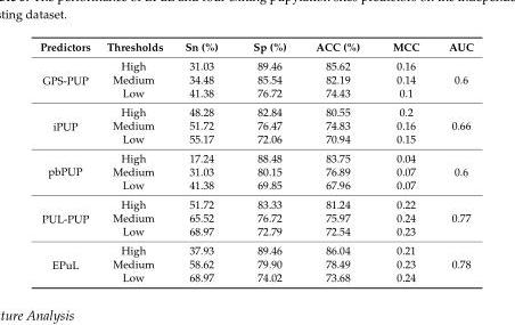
<table><thead><tr><td>Predictors</td><td>Thresholds</td><td>Sn (%)</td><td>Sp (%)</td><td>ACC (%)</td><td>MCC</td><td>AUC</td></tr></thead><tbody><tr><td rowspan="3">GPS-PUP</td><td>High</td><td>31.03</td><td>89.46</td><td>85.62</td><td>0.16</td><td></td></tr><tr><td>Medium</td><td>34.48</td><td>85.54</td><td>82.19</td><td>0.14</td><td>0.6</td></tr><tr><td>Low</td><td>41.38</td><td>76.72</td><td>74.43</td><td>0.1</td><td></td></tr><tr><td rowspan="3">iPUP</td><td>High</td><td>48.28</td><td>82.84</td><td>80.55</td><td>0.2</td><td></td></tr><tr><td>Medium</td><td>51.72</td><td>76.47</td><td>74.83</td><td>0.16</td><td>0.66</td></tr><tr><td>Low</td><td>55.17</td><td>72.06</td><td>70.94</td><td>0.15</td><td></td></tr><tr><td rowspan="3">pbPUP 1463</td><td>High</td><td>17.24</td><td>88.48</td><td>83.75</td><td>0.04</td><td></td></tr><tr><td>Medium</td><td>31.03</td><td>80.15</td><td>76.89</td><td>0.07</td><td>0.6</td></tr><tr><td>Low</td><td>41.38</td><td>69.85</td><td>67.96</td><td>0.07</td><td></td></tr><tr><td rowspan="3">PUL-PUP</td><td>High</td><td>51.72</td><td>83.33</td><td>81.24</td><td>0.22</td><td></td></tr><tr><td>Medium</td><td>65.52</td><td>76.72</td><td>75.97</td><td>0.24</td><td>0.77</td></tr><tr><td>Low</td><td>68.97</td><td>72.79</td><td>72.54</td><td>0.23</td><td></td></tr><tr><td rowspan="3">EPuL</td><td>High</td><td>37.93</td><td>89.46</td><td>86.04</td><td>0.21</td><td></td></tr><tr><td>Medium</td><td>58.62</td><td>79.90</td><td>78.49</td><td>0.23</td><td>0.78</td></tr><tr><td>Low</td><td>68.97</td><td>74.02</td><td>73.68</td><td>0.24</td><td></td></tr></tbody></table>